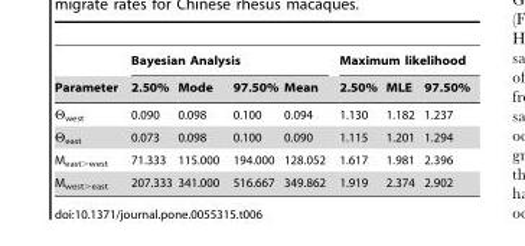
<table><thead><tr><td rowspan="2">Parameter</td><td colspan="4">Bayesian Analysis</td><td colspan="3">Maximum likelihood</td></tr><tr><td>2.50%</td><td>Mode</td><td>97.50%</td><td>Mean</td><td>2.50%</td><td>MLE</td><td>97.50%</td></tr></thead><tbody><tr><td>Θ<sub>west</sub></td><td>0.090</td><td>0.098</td><td>0.100</td><td>0.094</td><td>1.130</td><td>1.182</td><td>1.237</td></tr><tr><td>Θ<sub>east</sub></td><td>0.073</td><td>0.098</td><td>0.100</td><td>0.090</td><td>1.115</td><td>1.201</td><td>1.294</td></tr><tr><td>M<sub>east&gt;west</sub></td><td>71.333</td><td>115.000</td><td>194.000</td><td>128.052</td><td>1.617</td><td>1.981</td><td>2.396</td></tr><tr><td>M<sub>west&gt;east</sub></td><td>207.333</td><td>341.000</td><td>516.667</td><td>349.862</td><td>1.919</td><td>2.374</td><td>2.902</td></tr></tbody></table>